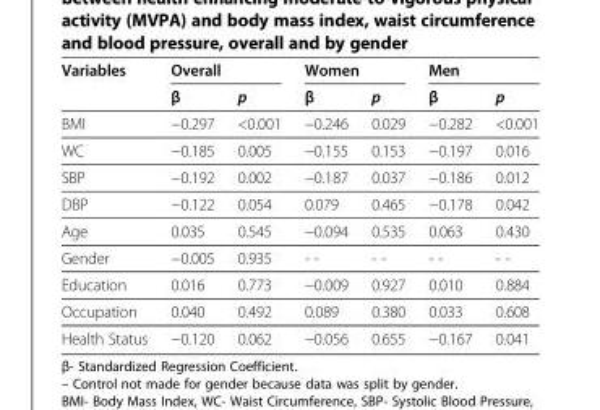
<table><thead><tr><td rowspan="2">Variables</td><td colspan="2">Overall</td><td colspan="2">Women</td><td colspan="2">Men</td></tr><tr><td>β</td><td>p</td><td>β</td><td>p</td><td>β</td><td>p</td></tr></thead><tbody><tr><td>BMI</td><td>−0.297</td><td>&lt;0.001</td><td>−0.246</td><td>0.029</td><td>−0.282</td><td>&lt;0.001</td></tr><tr><td>WC</td><td>−0.185</td><td>0.005</td><td>−0.155</td><td>0.153</td><td>−0.197</td><td>0.016</td></tr><tr><td>SBP</td><td>−0.192</td><td>0.002</td><td>−0.187</td><td>0.037</td><td>−0.186</td><td>0.012</td></tr><tr><td>DBP</td><td>−0.122</td><td>0.054</td><td>0.079</td><td>0.465</td><td>−0.178</td><td>0.042</td></tr><tr><td>Age</td><td>0.035</td><td>0.545</td><td>−0.094</td><td>0.535</td><td>0.063</td><td>0.430</td></tr><tr><td>Gender</td><td>−0.005</td><td>0.935</td><td>- -</td><td>- -</td><td>- -</td><td>- -</td></tr><tr><td>Education</td><td>0.016</td><td>0.773</td><td>−0.009</td><td>0.927</td><td>0.010</td><td>0.884</td></tr><tr><td>Occupation</td><td>0.040</td><td>0.492</td><td>0.089</td><td>0.380</td><td>0.033</td><td>0.608</td></tr><tr><td>Health Status</td><td>−0.120</td><td>0.062</td><td>−0.056</td><td>0.655</td><td>−0.167</td><td>0.041</td></tr></tbody></table>